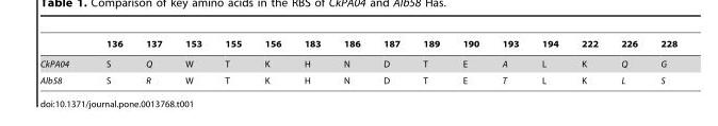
<table><thead><tr><td></td><td>136</td><td>137</td><td>153</td><td>155</td><td>156</td><td>183</td><td>186</td><td>187</td><td>189</td><td>190</td><td>193</td><td>194</td><td>222</td><td>226</td><td>228</td></tr></thead><tbody><tr><td>CkPA04</td><td>S</td><td>Q</td><td>W</td><td>T</td><td>K</td><td>H</td><td>N</td><td>D</td><td>T</td><td>E</td><td>A</td><td>L</td><td>K</td><td>Q</td><td>G</td></tr><tr><td>Alb58</td><td>S</td><td>R</td><td>W</td><td>T</td><td>K</td><td>H</td><td>N</td><td>D</td><td>T</td><td>E</td><td>T</td><td>L</td><td>K</td><td>L</td><td>S</td></tr></tbody></table>